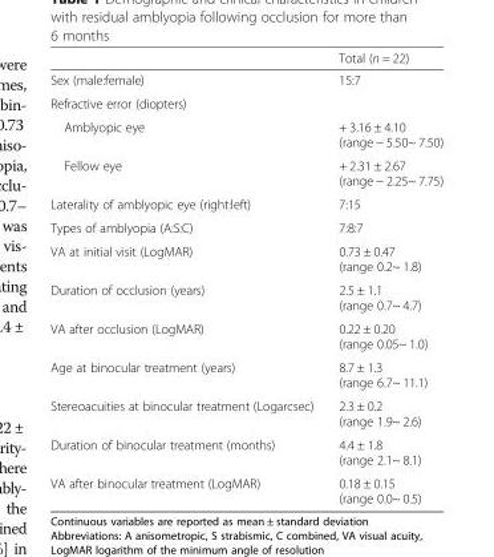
<table><thead><tr><td></td><td>Total (n = 22)</td></tr></thead><tbody><tr><td>Sex (male:female)</td><td>15:7</td></tr><tr><td colspan="2">Refractive error (diopters)</td></tr><tr><td>Amblyopic eye</td><td>+ 3.16 ± 4.10 (range − 5.50~ 7.50)</td></tr><tr><td>Fellow eye</td><td>+ 2.31 ± 2.67 (range − 2.25~ 7.75)</td></tr><tr><td>Laterality of amblyopic eye (right:left)</td><td>7:15</td></tr><tr><td>Types of amblyopia (A:S:C)</td><td>7:8:7</td></tr><tr><td>VA at initial visit (LogMAR)</td><td>0.73 ± 0.47 (range 0.2~ 1.8)</td></tr><tr><td>Duration of occlusion (years)</td><td>2.5 ± 1.1 (range 0.7~ 4.7)</td></tr><tr><td>VA after occlusion (LogMAR)</td><td>0.22 ± 0.20 (range 0.05~ 1.0)</td></tr><tr><td>Age at binocular treatment (years)</td><td>8.7 ± 1.3 (range 6.7~ 11.1)</td></tr><tr><td>Stereoacuities at binocular treatment (Logarcsec)</td><td>2.3 ± 0.2 (range 1.9~ 2.6)</td></tr><tr><td>Duration of binocular treatment (months)</td><td>4.4 ± 1.8 (range 2.1~ 8.1)</td></tr><tr><td>VA after binocular treatment (LogMAR)</td><td>0.18 ± 0.15 (range 0.0~ 0.5)</td></tr></tbody></table>